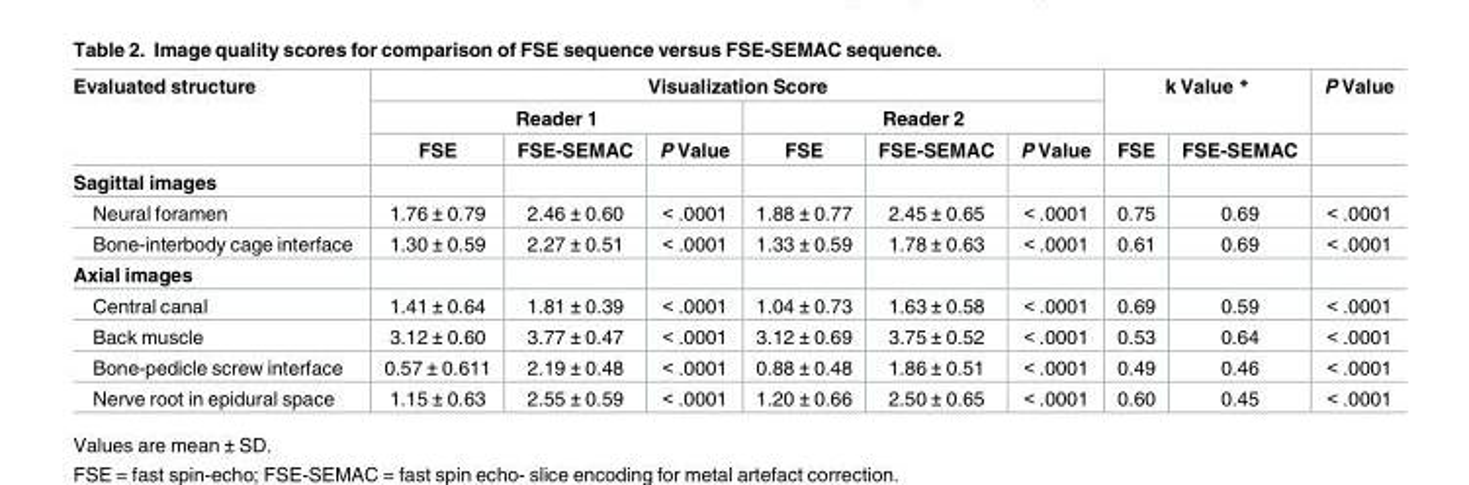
<table><thead><tr><td rowspan="3">Evaluated structure</td><td colspan="6">Visualization Score</td><td rowspan="2" colspan="2">k Value *</td><td rowspan="3">P Value</td></tr><tr><td colspan="3">Reader 1</td><td colspan="3">Reader 2</td></tr><tr><td>FSE</td><td>FSE-SEMAC</td><td>P Value</td><td>FSE</td><td>FSE-SEMAC</td><td>P Value</td><td>FSE</td><td>FSE-SEMAC</td></tr></thead><tbody><tr><td colspan="10">Sagittal images</td></tr><tr><td>Neural foramen</td><td>1.76 ± 0.79</td><td>2.46 ± 0.60</td><td>&lt; .0001</td><td>1.88 ± 0.77</td><td>2.45 ± 0.65</td><td>&lt; .0001</td><td>0.75</td><td>0.69</td><td>&lt; .0001</td></tr><tr><td>Bone-interbody cage interface</td><td>1.30 ± 0.59</td><td>2.27 ± 0.51</td><td>&lt; .0001</td><td>1.33 ± 0.59</td><td>1.78 ± 0.63</td><td>&lt; .0001</td><td>0.61</td><td>0.69</td><td>&lt; .0001</td></tr><tr><td colspan="10">Axial images</td></tr><tr><td>Central canal</td><td>1.41 ± 0.64</td><td>1.81 ± 0.39</td><td>&lt; .0001</td><td>1.04 ± 0.73</td><td>1.63 ± 0.58</td><td>&lt; .0001</td><td>0.69</td><td>0.59</td><td>&lt; .0001</td></tr><tr><td>Back muscle</td><td>3.12 ± 0.60</td><td>3.77 ± 0.47</td><td>&lt; .0001</td><td>3.12 ± 0.69</td><td>3.75 ± 0.52</td><td>&lt; .0001</td><td>0.53</td><td>0.64</td><td>&lt; .0001</td></tr><tr><td>Bone-pedicle screw interface</td><td>0.57 ± 0.611</td><td>2.19 ± 0.48</td><td>&lt; .0001</td><td>0.88 ± 0.48</td><td>1.86 ± 0.51</td><td>&lt; .0001</td><td>0.49</td><td>0.46</td><td>&lt; .0001</td></tr><tr><td>Nerve root in epidural space</td><td>1.15 ± 0.63</td><td>2.55 ± 0.59</td><td>&lt; .0001</td><td>1.20 ± 0.66</td><td>2.50 ± 0.65</td><td>&lt; .0001</td><td>0.60</td><td>0.45</td><td>&lt; .0001</td></tr></tbody></table>